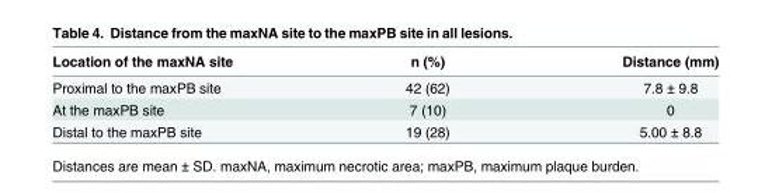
<table><thead><tr><td>Location of the maxNA site</td><td>n (%)</td><td>Distance (mm)</td></tr></thead><tbody><tr><td>Proximal to the maxPB site</td><td>42 (62)</td><td>7.8 ± 9.8</td></tr><tr><td>At the maxPB site</td><td>7 (10)</td><td>0</td></tr><tr><td>Distal to the maxPB site</td><td>19 (28)</td><td>5.00 ± 8.8</td></tr></tbody></table>